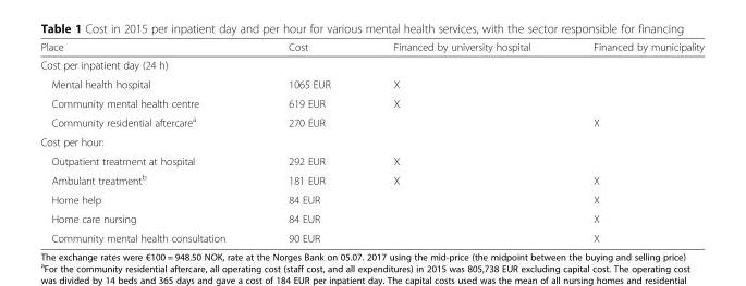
<table><thead><tr><td>Place</td><td>Cost</td><td>Financed by university hospital</td><td>Financed by municipality</td></tr></thead><tbody><tr><td colspan="4">Cost per inpatient day (24 h)</td></tr><tr><td>Mental health hospital</td><td>1065 EUR</td><td>X</td><td></td></tr><tr><td>Community mental health centre</td><td>619 EUR</td><td>X</td><td></td></tr><tr><td>Community residential aftercare<sup>a</sup></td><td>270 EUR</td><td></td><td>X</td></tr><tr><td colspan="4">Cost per hour:</td></tr><tr><td>Outpatient treatment at hospital</td><td>292 EUR</td><td>X</td><td></td></tr><tr><td>Ambulant treatment<sup>b</sup></td><td>181 EUR</td><td>X</td><td>X</td></tr><tr><td>Home help</td><td>84 EUR</td><td></td><td>X</td></tr><tr><td>Home care nursing</td><td>84 EUR</td><td></td><td>X</td></tr><tr><td>Community mental health consultation</td><td>90 EUR</td><td></td><td>X</td></tr></tbody></table>